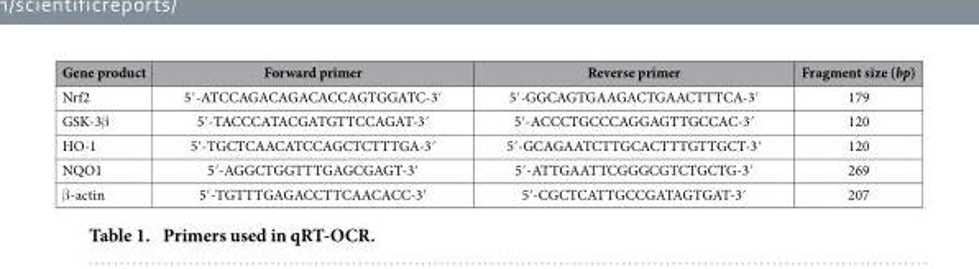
<table><thead><tr><td>Gene product</td><td>Forward primer</td><td>Reverse primer</td><td>Fragment size (bp)</td></tr></thead><tbody><tr><td>Nrf2</td><td>5′-ATCCAGACAGACACCAGTGGATC-3′</td><td>5′-GGCAGTGAAGACTGAACTTTCA-3′</td><td>179</td></tr><tr><td>GSK-3β</td><td>5′-TACCCATACGATGTTCCAGAT-3′</td><td>5′-ACCCTGCCCAGGAGTTGCCAC-3′</td><td>120</td></tr><tr><td>HO-1</td><td>5′-TGCTCAACATCCAGCTCTTTGA-3′</td><td>5′-GCAGAATCTTGCACTTTGTTGCT-3′</td><td>120</td></tr><tr><td>NQO1</td><td>5′-AGGCTGGTTTGAGCGAGT-3′</td><td>5′-ATTGAATTCGGGCGTCTGCTG-3′</td><td>269</td></tr><tr><td>β -actin</td><td>5′-TGTTTGAGACCTTCAACACC-3′</td><td>5′-CGCTCATTGCCGATAGTGAT-3′</td><td>207</td></tr></tbody></table>